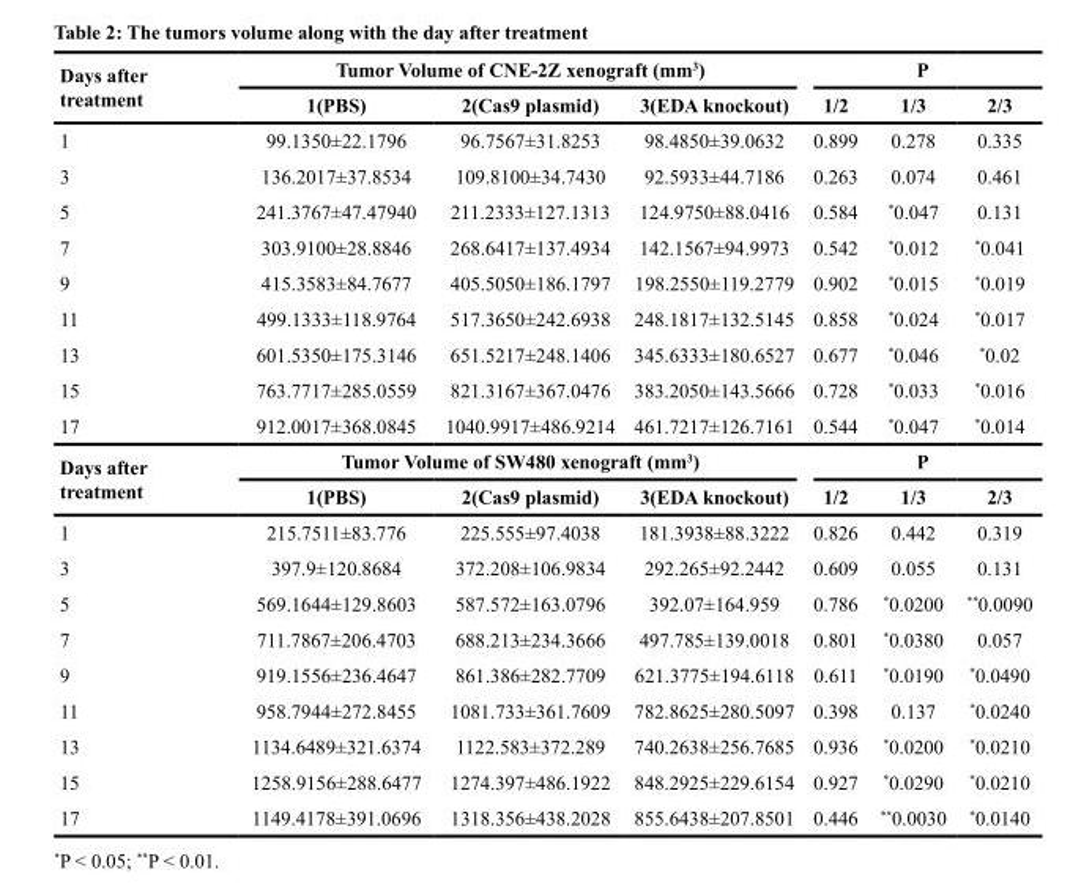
<table><thead><tr><td rowspan="2">Days after treatment</td><td colspan="3">Tumor Volume of CNE-2Z xenograft (mm<sup>3</sup>)</td><td colspan="3">P</td></tr><tr><td>1(PBS)</td><td>2(Cas9 plasmid)</td><td>3(EDA knockout)</td><td>1/2</td><td>1/3</td><td>2/3</td></tr></thead><tbody><tr><td>1</td><td>99.1350±22.1796</td><td>96.7567±31.8253</td><td>98.4850±39.0632</td><td>0.899</td><td>0.278</td><td>0.335</td></tr><tr><td>3</td><td>136.2017±37.8534</td><td>109.8100±34.7430</td><td>92.5933±44.7186</td><td>0.263</td><td>0.074</td><td>0.461</td></tr><tr><td>5</td><td>241.3767±47.47940</td><td>211.2333±127.1313</td><td>124.9750±88.0416</td><td>0.584</td><td>*0.047</td><td>0.131</td></tr><tr><td>7</td><td>303.9100±28.8846</td><td>268.6417±137.4934</td><td>142.1567±94.9973</td><td>0.542</td><td>*0.012</td><td>*0.041</td></tr><tr><td>9</td><td>415.3583±84.7677</td><td>405.5050±186.1797</td><td>198.2550±119.2779</td><td>0.902</td><td>*0.015</td><td>*0.019</td></tr><tr><td>11</td><td>499.1333±118.9764</td><td>517.3650±242.6938</td><td>248.1817±132.5145</td><td>0.858</td><td>*0.024</td><td>*0.017</td></tr><tr><td>13</td><td>601.5350±175.3146</td><td>651.5217±248.1406</td><td>345.6333±180.6527</td><td>0.677</td><td>*0.046</td><td>*0.02</td></tr><tr><td>15</td><td>763.7717±285.0559</td><td>821.3167±367.0476</td><td>383.2050±143.5666</td><td>0.728</td><td>*0.033</td><td>*0.016</td></tr><tr><td>17</td><td>912.0017±368.0845</td><td>1040.9917±486.9214</td><td>461.7217±126.7161</td><td>0.544</td><td>*0.047</td><td>*0.014</td></tr><tr><td rowspan="2">Days after treatment</td><td colspan="3">Tumor Volume of SW480 xenograft (mm<sup>3</sup>)</td><td colspan="3">P</td></tr><tr><td>1(PBS)</td><td>2(Cas9 plasmid)</td><td>3(EDA knockout)</td><td>1/2</td><td>1/3</td><td>2/3</td></tr><tr><td>1</td><td>215.7511±83.776</td><td>225.555±97.4038</td><td>181.3938±88.3222</td><td>0.826</td><td>0.442</td><td>0.319</td></tr><tr><td>3</td><td>397.9±120.8684</td><td>372.208±106.9834</td><td>292.265±92.2442</td><td>0.609</td><td>0.055</td><td>0.131</td></tr><tr><td>5</td><td>569.1644±129.8603</td><td>587.572±163.0796</td><td>392.07±164.959</td><td>0.786</td><td>*0.0200</td><td>**0.0090</td></tr><tr><td>7</td><td>711.7867±206.4703</td><td>688.213±234.3666</td><td>497.785±139.0018</td><td>0.801</td><td>*0.0380</td><td>0.057</td></tr><tr><td>9</td><td>919.1556±236.4647</td><td>861.386±282.7709</td><td>621.3775±194.6118</td><td>0.611</td><td>*0.0190</td><td>*0.0490</td></tr><tr><td>11</td><td>958.7944±272.8455</td><td>1081.733±361.7609</td><td>782.8625±280.5097</td><td>0.398</td><td>0.137</td><td>*0.0240</td></tr><tr><td>13</td><td>1134.6489±321.6374</td><td>1122.583±372.289</td><td>740.2638±256.7685</td><td>0.936</td><td>*0.0200</td><td>*0.0210</td></tr><tr><td>15</td><td>1258.9156±288.6477</td><td>1274.397±486.1922</td><td>848.2925±229.6154</td><td>0.927</td><td>*0.0290</td><td>*0.0210</td></tr><tr><td>17</td><td>1149.4178±391.0696</td><td>1318.356±438.2028</td><td>855.6438±207.8501</td><td>0.446</td><td>**0.0030</td><td>*0.0140</td></tr></tbody></table>